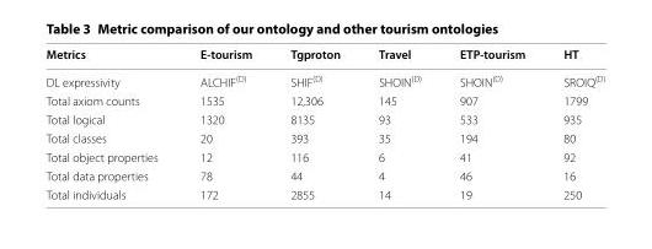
<table><thead><tr><td>Metrics</td><td>E-tourism</td><td>Tgproton</td><td>Travel</td><td>ETP-tourism</td><td>HT</td></tr></thead><tbody><tr><td>DL expressivity</td><td>ALCHIF<sup>(D)</sup></td><td>SHIF<sup>(D)</sup></td><td>SHOIN<sup>(D)</sup></td><td>SHOIN<sup>(D)</sup></td><td>SROIQ<sup>(D)</sup></td></tr><tr><td>Total axiom counts</td><td>1535</td><td>12,306</td><td>145</td><td>907</td><td>1799</td></tr><tr><td>Total logical</td><td>1320</td><td>8135</td><td>93</td><td>533</td><td>935</td></tr><tr><td>Total classes</td><td>20</td><td>393</td><td>35</td><td>194</td><td>80</td></tr><tr><td>Total object properties</td><td>12</td><td>116</td><td>6</td><td>41</td><td>92</td></tr><tr><td>Total data properties</td><td>78</td><td>44</td><td>4</td><td>46</td><td>16</td></tr><tr><td>Total individuals</td><td>172</td><td>2855</td><td>14</td><td>19</td><td>250</td></tr></tbody></table>